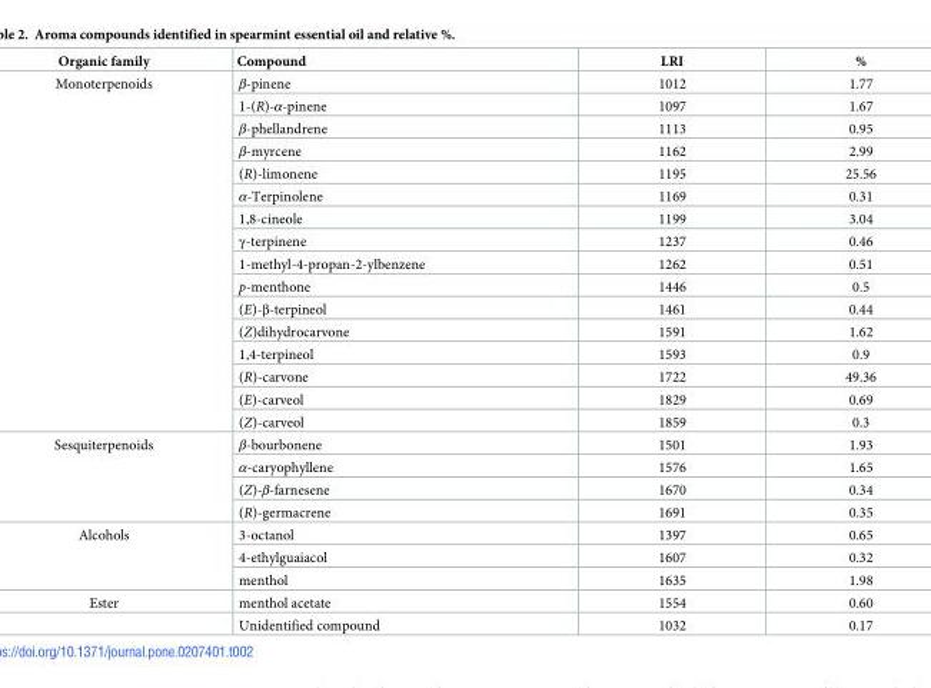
<table><thead><tr><td>Organic family</td><td>Compound</td><td>LRI</td><td>%</td></tr></thead><tbody><tr><td rowspan="16">Monoterpenoids</td><td>β-pinene</td><td>1012</td><td>1.77</td></tr><tr><td>1-(R)-α-pinene</td><td>1097</td><td>1.67</td></tr><tr><td>β-phellandrene</td><td>1113</td><td>0.95</td></tr><tr><td>β-myrcene</td><td>1162</td><td>2.99</td></tr><tr><td>(R)-limonene</td><td>1195</td><td>25.56</td></tr><tr><td>α-Terpinolene</td><td>1169</td><td>0.31</td></tr><tr><td>1,8-cineole</td><td>1199</td><td>3.04</td></tr><tr><td>γ-terpinene</td><td>1237</td><td>0.46</td></tr><tr><td>1-methyl-4-propan-2-ylbenzene</td><td>1262</td><td>0.51</td></tr><tr><td>p-menthone</td><td>1446</td><td>0.5</td></tr><tr><td>(E)-β-terpineol</td><td>1461</td><td>0.44</td></tr><tr><td>(Z)dihydrocarvone</td><td>1591</td><td>1.62</td></tr><tr><td>1,4-terpineol</td><td>1593</td><td>0.9</td></tr><tr><td>(R)-carvone</td><td>1722</td><td>49.36</td></tr><tr><td>(E)-carveol</td><td>1829</td><td>0.69</td></tr><tr><td>(Z)-carveol</td><td>1859</td><td>0.3</td></tr><tr><td rowspan="4">Sesquiterpenoids</td><td>β-bourbonene</td><td>1501</td><td>1.93</td></tr><tr><td>α-caryophyllene</td><td>1576</td><td>1.65</td></tr><tr><td>(Z)-β-farnesene</td><td>1670</td><td>0.34</td></tr><tr><td>(R)-germacrene</td><td>1691</td><td>0.35</td></tr><tr><td rowspan="3">Alcohols</td><td>3-octanol</td><td>1397</td><td>0.65</td></tr><tr><td>4-ethylguaiacol</td><td>1607</td><td>0.32</td></tr><tr><td>menthol</td><td>1635</td><td>1.98</td></tr><tr><td rowspan="2">Ester</td><td>menthol acetate</td><td>1554</td><td>0.60</td></tr><tr><td>Unidentified compound</td><td>1032</td><td>0.17</td></tr></tbody></table>